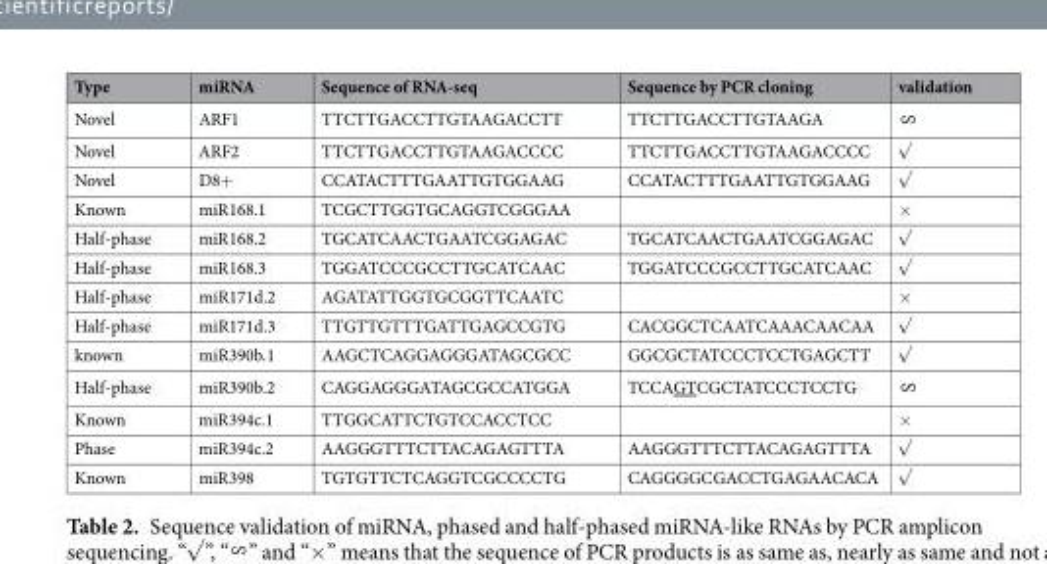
<table><thead><tr><td>Type</td><td>miRNA</td><td>Sequence of RNA-seq</td><td>Sequence by PCR cloning</td><td>validation</td></tr></thead><tbody><tr><td>Novel</td><td>ARF1</td><td>TTCTTGACCTTGTAAGACCTT</td><td>TTCTTGACCTTGTAAGA</td><td>∽</td></tr><tr><td>Novel</td><td>ARF2</td><td>TTCTTGACCTTGTAAGACCCC</td><td>TTCTTGACCTTGTAAGACCCC</td><td>√</td></tr><tr><td>Novel</td><td>D8+</td><td>CCATACTTTGAATTGTGGAAG</td><td>CCATACTTTGAATTGTGGAAG</td><td>√</td></tr><tr><td>Known</td><td>miR168.1</td><td>TCGCTTGGTGCAGGTCGGGAA</td><td></td><td>×</td></tr><tr><td>Half-phase</td><td>miR168.2</td><td>TGCATCAACTGAATCGGAGAC</td><td>TGCATCAACTGAATCGGAGAC</td><td>√</td></tr><tr><td>Half-phase</td><td>miR168.3</td><td>TGGATCCCGCCTTGCATCAAC</td><td>TGGATCCCGCCTTGCATCAAC</td><td>√</td></tr><tr><td>Half-phase</td><td>miR171d.2</td><td>AGATATTGGTGCGGTTCAATC</td><td></td><td>×</td></tr><tr><td>Half-phase</td><td>miR171d.3</td><td>TTGTTGTTTGATTGAGCCGTG</td><td>CACGGCTCAATCAAACAACAA</td><td>√</td></tr><tr><td>known</td><td>miR390b.1</td><td>AAGCTCAGGAGGGATAGCGCC</td><td>GGCGCTATCCCTCCTGAGCTT</td><td>√</td></tr><tr><td>Half-phase</td><td>miR390b.2</td><td>CAGGAGGGATAGCGCCATGGA</td><td>TCCAGTCGCTATCCCTCCTG</td><td>∽</td></tr><tr><td>Known</td><td>miR394c.1</td><td>TTGGCATTCTGTCCACCTCC</td><td></td><td>×</td></tr><tr><td>Phase</td><td>miR394c.2</td><td>AAGGGTTTCTTACAGAGTTTA</td><td>AAGGGTTTCTTACAGAGTTTA</td><td>√</td></tr><tr><td>Known</td><td>miR398</td><td>TGTGTTCTCAGGTCGCCCCTG</td><td>CAGGGGCGACCTGAGAACACA</td><td>√</td></tr></tbody></table>